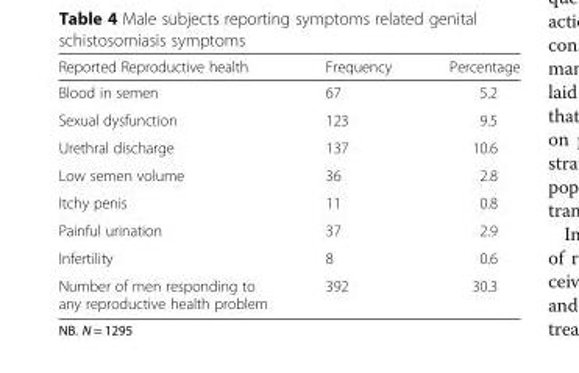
<table><thead><tr><td>Reported Reproductive health</td><td>Frequency</td><td>Percentage</td></tr></thead><tbody><tr><td>Blood in semen</td><td>67</td><td>5.2</td></tr><tr><td>Sexual dysfunction</td><td>123</td><td>9.5</td></tr><tr><td>Urethral discharge</td><td>137</td><td>10.6</td></tr><tr><td>Low semen volume</td><td>36</td><td>2.8</td></tr><tr><td>Itchy penis</td><td>11</td><td>0.8</td></tr><tr><td>Painful urination</td><td>37</td><td>2.9</td></tr><tr><td>Infertility</td><td>8</td><td>0.6</td></tr><tr><td>Number of men responding to any reproductive health problem</td><td>392</td><td>30.3</td></tr></tbody></table>